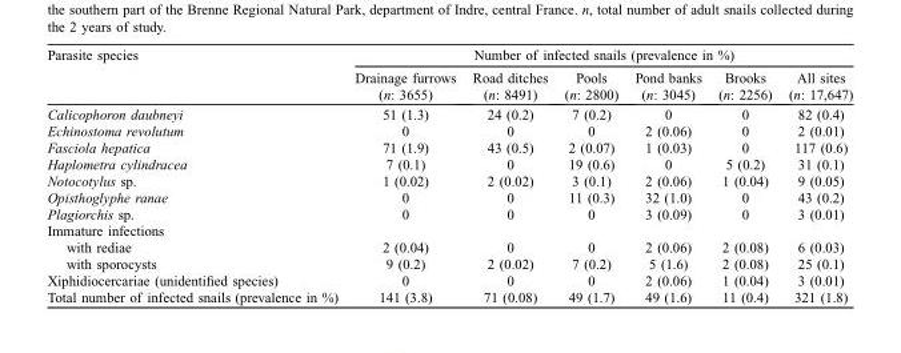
<table><thead><tr><td rowspan="2">Parasite species</td><td colspan="6">Number of infected snails (prevalence in %)</td></tr><tr><td>Drainage furrows (n: 3655)</td><td>Road ditches (n: 8491)</td><td>Pools (n: 2800)</td><td>Pond banks (n: 3045)</td><td>Brooks (n: 2256)</td><td>All sites (n: 17,647)</td></tr></thead><tbody><tr><td>Calicophoron daubneyi</td><td>51 (1.3)</td><td>24 (0.2)</td><td>7 (0.2)</td><td>0</td><td>0</td><td>82 (0.4)</td></tr><tr><td>Echinostoma revolutum</td><td>0</td><td>0</td><td>0</td><td>2 (0.06)</td><td>0</td><td>2 (0.01)</td></tr><tr><td>Fasciola hepatica</td><td>71 (1.9)</td><td>43 (0.5)</td><td>2 (0.07)</td><td>1 (0.03)</td><td>0</td><td>117 (0.6)</td></tr><tr><td>Haplometra cylindracea</td><td>7 (0.1)</td><td>0</td><td>19 (0.6)</td><td>0</td><td>5 (0.2)</td><td>31 (0.1)</td></tr><tr><td>Notocotylus sp.</td><td>1 (0.02)</td><td>2 (0.02)</td><td>3 (0.1)</td><td>2 (0.06)</td><td>1 (0.04)</td><td>9 (0.05)</td></tr><tr><td>Opisthoglyphe ranae</td><td>0</td><td>0</td><td>11 (0.3)</td><td>32 (1.0)</td><td>0</td><td>43 (0.2)</td></tr><tr><td>Plagiorchis sp.</td><td>0</td><td>0</td><td>0</td><td>3 (0.09)</td><td>0</td><td>3 (0.01)</td></tr><tr><td colspan="7">Immature infections</td></tr><tr><td>with rediae</td><td>2 (0.04)</td><td>0</td><td>0</td><td>2 (0.06)</td><td>2 (0.08)</td><td>6 (0.03)</td></tr><tr><td>with sporocysts</td><td>9 (0.2)</td><td>2 (0.02)</td><td>7 (0.2)</td><td>5 (1.6)</td><td>2 (0.08)</td><td>25 (0.1)</td></tr><tr><td>Xiphidiocercariae (unidentified species)</td><td>0</td><td>0</td><td>0</td><td>2 (0.06)</td><td>1 (0.04)</td><td>3 (0.01)</td></tr><tr><td>Total number of infected snails (prevalence in %)</td><td>141 (3.8)</td><td>71 (0.08)</td><td>49 (1.7)</td><td>49 (1.6)</td><td>11 (0.4)</td><td>321 (1.8)</td></tr></tbody></table>